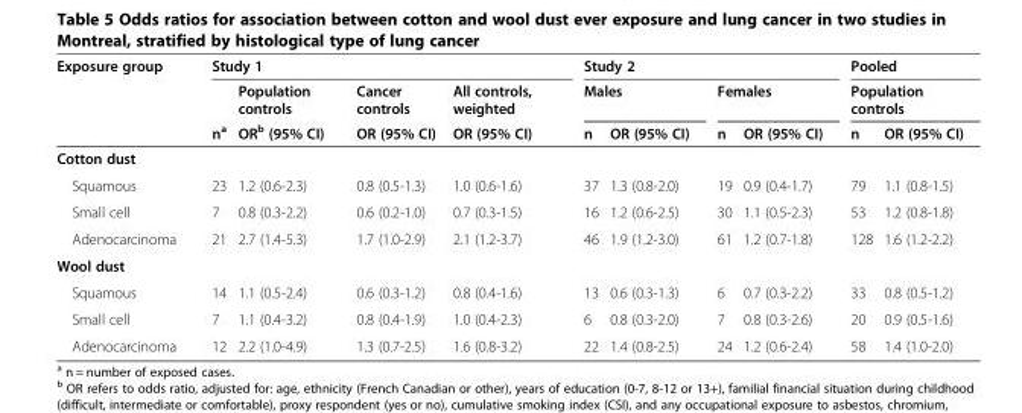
<table><thead><tr><td rowspan="3">Exposure group</td><td colspan="4">Study 1</td><td colspan="4">Study 2</td><td rowspan="2" colspan="2">Pooled Population controls</td></tr><tr><td rowspan="2">n<sup>a</sup></td><td rowspan="2">Population controls OR<sup>b</sup> (95% CI)</td><td rowspan="2">Cancer controls OR (95% CI)</td><td rowspan="2">All controls, weighted OR (95% CI)</td><td colspan="2">Males</td><td colspan="2">Females</td></tr><tr><td>n</td><td>OR (95% CI)</td><td>n</td><td>OR (95% CI)</td><td>n</td><td>OR (95% CI)</td></tr></thead><tbody><tr><td colspan="11">Cotton dust</td></tr><tr><td>Squamous</td><td>23</td><td>1.2 (0.6-2.3)</td><td>0.8 (0.5-1.3)</td><td>1.0 (0.6-1.6)</td><td>37</td><td>1.3 (0.8-2.0)</td><td>19</td><td>0.9 (0.4-1.7)</td><td>79</td><td>1.1 (0.8-1.5)</td></tr><tr><td>Small cell</td><td>7</td><td>0.8 (0.3-2.2)</td><td>0.6 (0.2-1.0)</td><td>0.7 (0.3-1.5)</td><td>16</td><td>1.2 (0.6-2.5)</td><td>30</td><td>1.1 (0.5-2.3)</td><td>53</td><td>1.2 (0.8-1.8)</td></tr><tr><td>Adenocarcinoma</td><td>21</td><td>2.7 (1.4-5.3)</td><td>1.7 (1.0-2.9)</td><td>2.1 (1.2-3.7)</td><td>46</td><td>1.9 (1.2-3.0)</td><td>61</td><td>1.2 (0.7-1.8)</td><td>128</td><td>1.6 (1.2-2.2)</td></tr><tr><td colspan="11">Wool dust</td></tr><tr><td>Squamous</td><td>14</td><td>1.1 (0.5-2.4)</td><td>0.6 (0.3-1.2)</td><td>0.8 (0.4-1.6)</td><td>13</td><td>0.6 (0.3-1.3)</td><td>6</td><td>0.7 (0.3-2.2)</td><td>33</td><td>0.8 (0.5-1.2)</td></tr><tr><td>Small cell</td><td>7</td><td>1.1 (0.4-3.2)</td><td>0.8 (0.4-1.9)</td><td>1.0 (0.4-2.3)</td><td>6</td><td>0.8 (0.3-2.0)</td><td>7</td><td>0.8 (0.3-2.6)</td><td>20</td><td>0.9 (0.5-1.6)</td></tr><tr><td>Adenocarcinoma</td><td>12</td><td>2.2 (1.0-4.9)</td><td>1.3 (0.7-2.5)</td><td>1.6 (0.8-3.2)</td><td>22</td><td>1.4 (0.8-2.5)</td><td>24</td><td>1.2 (0.6-2.4)</td><td>58</td><td>1.4 (1.0-2.0)</td></tr></tbody></table>